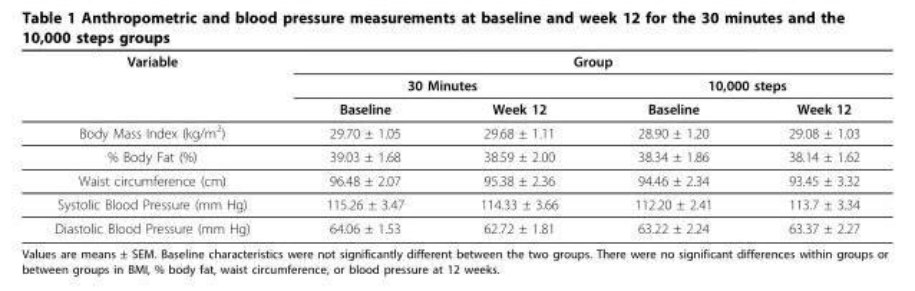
<table><thead><tr><td rowspan="3">Variable</td><td colspan="4">Group</td></tr><tr><td colspan="2">30 Minutes</td><td colspan="2">10,000 steps</td></tr><tr><td>Baseline</td><td>Week 12</td><td>Baseline</td><td>Week 12</td></tr></thead><tbody><tr><td>Body Mass Index (kg/m<sup>2</sup>)</td><td>29.70 ± 1.05</td><td>29.68 ± 1.11</td><td>28.90 ± 1.20</td><td>29.08 ± 1.03</td></tr><tr><td>% Body Fat (%)</td><td>39.03 ± 1.68</td><td>38.59 ± 2.00</td><td>38.34 ± 1.86</td><td>38.14 ± 1.62</td></tr><tr><td>Waist circumference (cm)</td><td>96.48 ± 2.07</td><td>95.38 ± 2.36</td><td>94.46 ± 2.34</td><td>93.45 ± 3.32</td></tr><tr><td>Systolic Blood Pressure (mm Hg)</td><td>115.26 ± 3.47</td><td>114.33 ± 3.66</td><td>112.20 ± 2.41</td><td>113.7 ± 3.34</td></tr><tr><td>Diastolic Blood Pressure (mm Hg)</td><td>64.06 ± 1.53</td><td>62.72 ± 1.81</td><td>63.22 ± 2.24</td><td>63.37 ± 2.27</td></tr></tbody></table>